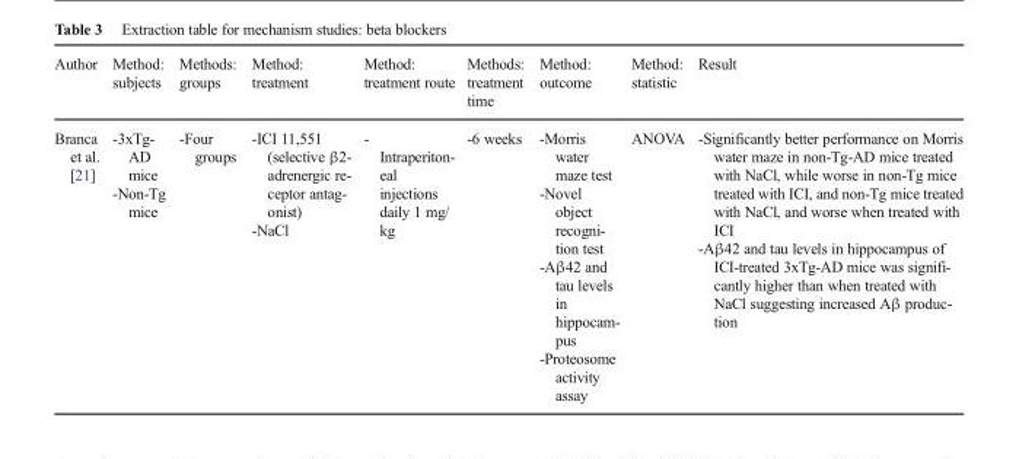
<table><thead><tr><td>Author</td><td>Method: subjects</td><td>Methods: groups</td><td>Method: treatment</td><td>Method: treatment route</td><td>Methods: treatment time</td><td>Method: outcome</td><td>Method: statistic</td><td>Result</td></tr></thead><tbody><tr><td>Branca et al. [21]</td><td>-3xTg- AD mice -Non-Tg mice</td><td>-Four groups</td><td>-ICI 11,551 (selective β2- adrenergic re- ceptor antag- onist) -NaCl</td><td>- Intraperiton- eal injections daily 1 mg/ kg</td><td>-6 weeks</td><td>-Morris water maze test -Novel object recogni- tion test -Aβ42 and tau levels in hippocam- pus -Proteosome activity assay</td><td>ANOVA</td><td>-Significantly better performance on Morris water maze in non-Tg-AD mice treated with NaCl, while worse in non-Tg mice treated with ICI, and non-Tg mice treated with NaCl, and worse when treated with ICI -Aβ42 and tau levels in hippocampus of ICI-treated 3xTg-AD mice was signifi- cantly higher than when treated with NaCl suggesting increased Aβ produc- tion</td></tr></tbody></table>